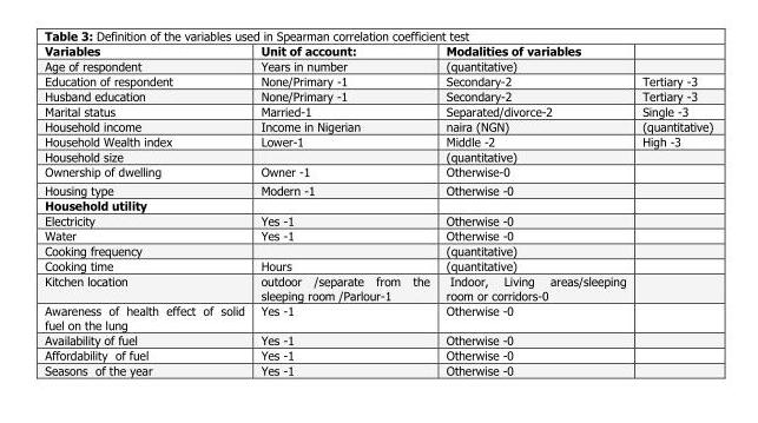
<table><thead><tr><td>Variables</td><td>Unit of account:</td><td>Modalities of variables</td><td></td></tr></thead><tbody><tr><td>Age of respondent</td><td>Years in number</td><td>(quantitative)</td><td></td></tr><tr><td>Education of respondent</td><td>None/Primary -1</td><td>Secondary-2</td><td>Tertiary -3</td></tr><tr><td>Husband education</td><td>None/Primary -1</td><td>Secondary-2</td><td>Tertiary -3</td></tr><tr><td>Marital status</td><td>Married-1</td><td>Separated/divorce-2</td><td>Single -3</td></tr><tr><td>Household income</td><td>Income in Nigerian</td><td>naira (NGN)</td><td>(quantitative)</td></tr><tr><td>Household Wealth index</td><td>Lower-1</td><td>Middle -2</td><td>High -3</td></tr><tr><td>Household size</td><td></td><td>(quantitative)</td><td></td></tr><tr><td>Ownership of dwelling</td><td>Owner -1</td><td>Otherwise-0</td><td></td></tr><tr><td>Housing type</td><td>Modern -1</td><td>Otherwise -0</td><td></td></tr><tr><td colspan="4">Household utility</td></tr><tr><td>Electricity</td><td>Yes -1</td><td>Otherwise -0</td><td></td></tr><tr><td>Water</td><td>Yes -1</td><td>Otherwise -0</td><td></td></tr><tr><td>Cooking frequency</td><td></td><td>(quantitative)</td><td></td></tr><tr><td>Cooking time</td><td>Hours</td><td>(quantitative)</td><td></td></tr><tr><td>Kitchen location</td><td>outdoor /separate from the sleeping room /Parlour-1</td><td>Indoor, Living areas/sleeping room or corridors-0</td><td></td></tr><tr><td>Awareness of health effect of solid fuel on the lung</td><td>Yes -1</td><td>Otherwise -0</td><td></td></tr><tr><td>Availability of fuel</td><td>Yes -1</td><td>Otherwise -0</td><td></td></tr><tr><td>Affordability of fuel</td><td>Yes -1</td><td>Otherwise -0</td><td></td></tr><tr><td>Seasons of the year</td><td>Yes -1</td><td>Otherwise -0</td><td></td></tr></tbody></table>